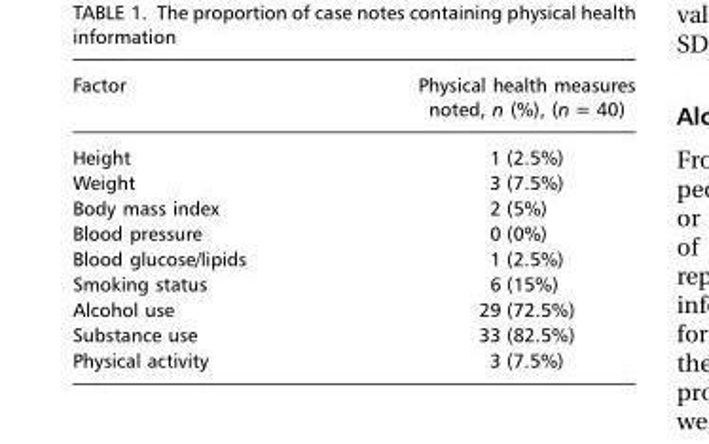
<table><thead><tr><td>Factor</td><td>Physical health measures noted, n (%), (n = 40)</td></tr></thead><tbody><tr><td>Height</td><td>1 (2.5%)</td></tr><tr><td>Weight</td><td>3 (7.5%)</td></tr><tr><td>Body mass index</td><td>2 (5%)</td></tr><tr><td>Blood pressure</td><td>0 (0%)</td></tr><tr><td>Blood glucose/lipids</td><td>1 (2.5%)</td></tr><tr><td>Smoking status</td><td>6 (15%)</td></tr><tr><td>Alcohol use</td><td>29 (72.5%)</td></tr><tr><td>Substance use</td><td>33 (82.5%)</td></tr><tr><td>Physical activity</td><td>3 (7.5%)</td></tr></tbody></table>